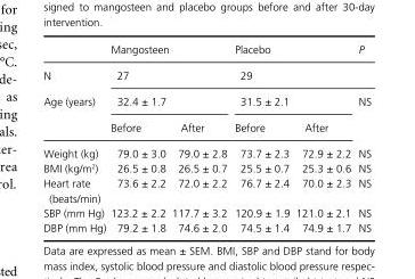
<table><thead><tr><td rowspan="4">N Age (years)</td><td rowspan="3" colspan="2">Mangosteen 27 32.4 ± 1.7</td><td rowspan="3" colspan="2">Placebo 29 31.5 ± 2.1</td><td rowspan="4">P NS</td></tr><tr></tr><tr></tr><tr><td>Before</td><td>After</td><td>Before</td><td>After</td></tr></thead><tbody><tr><td>Weight (kg)</td><td>79.0 ± 3.0</td><td>79.0 ± 2.8</td><td>73.7 ± 2.3</td><td>72.9 ± 2.2</td><td>NS</td></tr><tr><td>BMI (kg/m <sup>2</sup> )</td><td>26.5 ± 0.8</td><td>26.5 ± 0.7</td><td>25.5 ± 0.7</td><td>25.3 ± 0.6</td><td>NS</td></tr><tr><td>Heart rate (beats/min)</td><td>73.6 ± 2.2</td><td>72.0 ± 2.2</td><td>76.7 ± 2.4</td><td>70.0 ± 2.3</td><td>NS</td></tr><tr><td>SBP (mm Hg)</td><td>123.2 ± 2.2</td><td>117.7 ± 3.2</td><td>120.9 ± 1.9</td><td>121.0 ± 2.1</td><td>NS</td></tr><tr><td>DBP (mm Hg)</td><td>79.2 ± 1.8</td><td>74.6 ± 2.0</td><td>74.5 ± 1.4</td><td>74.9 ± 1.7</td><td>NS</td></tr></tbody></table>